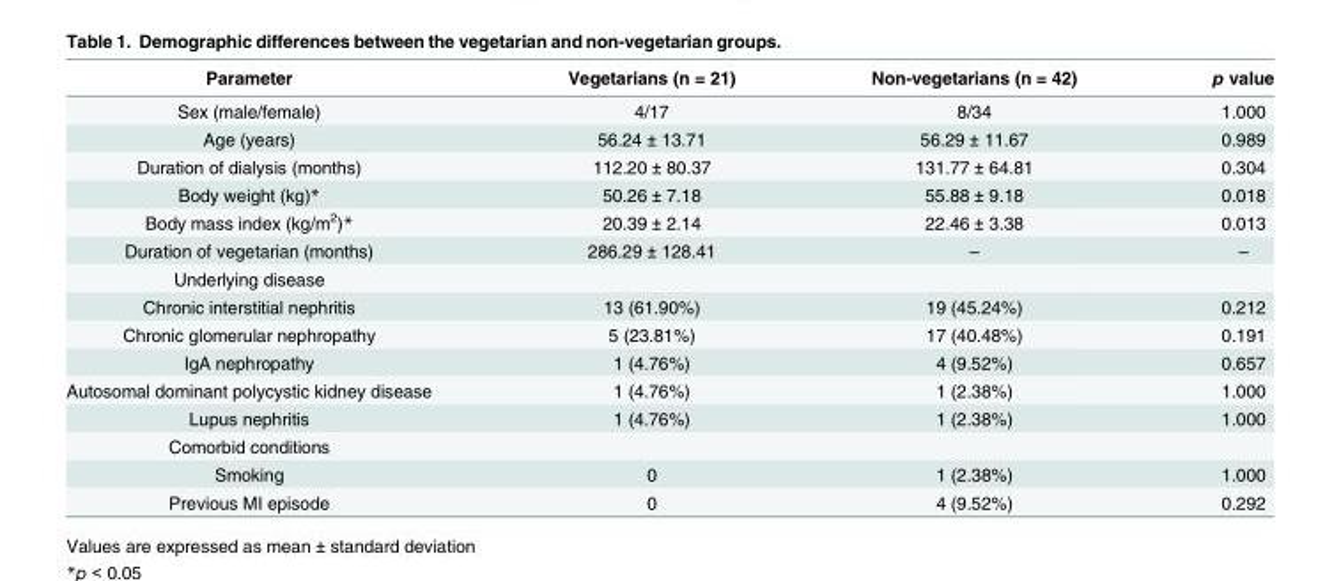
<table><thead><tr><td>Parameter</td><td>Vegetarians (n = 21)</td><td>Non-vegetarians (n = 42)</td><td>p value</td></tr></thead><tbody><tr><td>Sex (male/female)</td><td>4/17</td><td>8/34</td><td>1.000</td></tr><tr><td>Age (years)</td><td>56.24 ± 13.71</td><td>56.29 ± 11.67</td><td>0.989</td></tr><tr><td>Duration of dialysis (months)</td><td>112.20 ± 80.37</td><td>131.77 ± 64.81</td><td>0.304</td></tr><tr><td>Body weight (kg)*</td><td>50.26 ± 7.18</td><td>55.88 ± 9.18</td><td>0.018</td></tr><tr><td>Body mass index (kg/m<sup>2</sup>)*</td><td>20.39 ± 2.14</td><td>22.46 ± 3.38</td><td>0.013</td></tr><tr><td>Duration of vegetarian (months)</td><td>286.29 ± 128.41</td><td>–</td><td>–</td></tr><tr><td colspan="4">Underlying disease</td></tr><tr><td>Chronic interstitial nephritis</td><td>13 (61.90%)</td><td>19 (45.24%)</td><td>0.212</td></tr><tr><td>Chronic glomerular nephropathy</td><td>5 (23.81%)</td><td>17 (40.48%)</td><td>0.191</td></tr><tr><td>IgA nephropathy</td><td>1 (4.76%)</td><td>4 (9.52%)</td><td>0.657</td></tr><tr><td>Autosomal dominant polycystic kidney disease</td><td>1 (4.76%)</td><td>1 (2.38%)</td><td>1.000</td></tr><tr><td>Lupus nephritis</td><td>1 (4.76%)</td><td>1 (2.38%)</td><td>1.000</td></tr><tr><td colspan="4">Comorbid conditions</td></tr><tr><td>Smoking</td><td>0</td><td>1 (2.38%)</td><td>1.000</td></tr><tr><td>Previous MI episode</td><td>0</td><td>4 (9.52%)</td><td>0.292</td></tr></tbody></table>